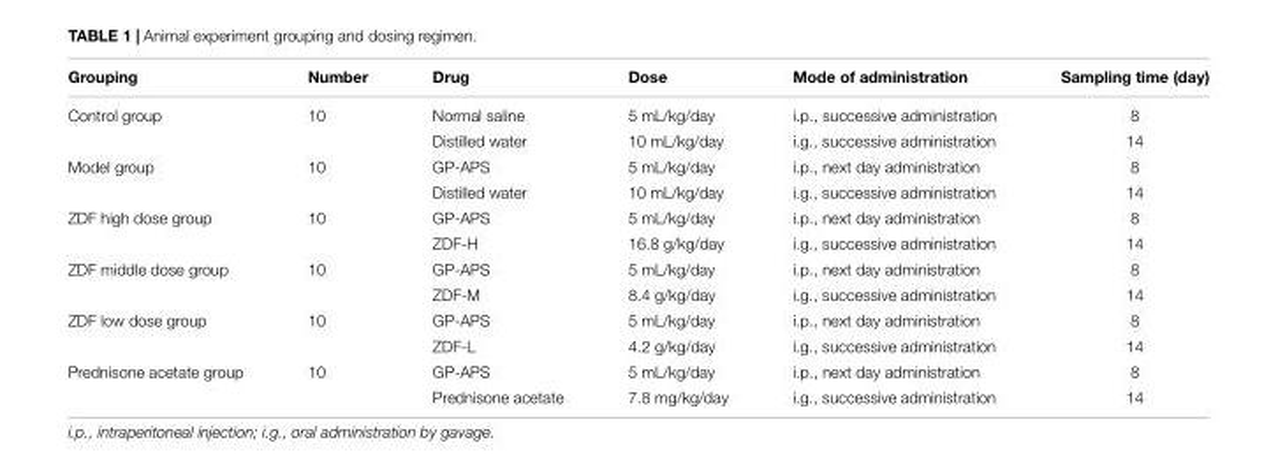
<table><thead><tr><td>Grouping</td><td>Number</td><td>Drug</td><td>Dose</td><td>Mode of administration</td><td>Sampling time (day)</td></tr></thead><tbody><tr><td rowspan="2">Control group</td><td>10</td><td>Normal saline</td><td>5 mL/kg/day</td><td>i.p., successive administration</td><td>8</td></tr><tr><td></td><td>Distilled water</td><td>10 mL/kg/day</td><td>i.g., successive administration</td><td>14</td></tr><tr><td rowspan="2">Model group</td><td>10</td><td>GP-APS</td><td>5 mL/kg/day</td><td>i.p., next day administration</td><td>8</td></tr><tr><td></td><td>Distilled water</td><td>10 mL/kg/day</td><td>i.g., successive administration</td><td>14</td></tr><tr><td rowspan="2">ZDF high dose group</td><td>10</td><td>GP-APS</td><td>5 mL/kg/day</td><td>i.p., next day administration</td><td>8</td></tr><tr><td></td><td>ZDF-H</td><td>16.8 g/kg/day</td><td>i.g., successive administration</td><td>14</td></tr><tr><td rowspan="2">ZDF middle dose group</td><td>10</td><td>GP-APS</td><td>5 mL/kg/day</td><td>i.p., next day administration</td><td>8</td></tr><tr><td></td><td>ZDF-M</td><td>8.4 g/kg/day</td><td>i.g., successive administration</td><td>14</td></tr><tr><td rowspan="2">ZDF low dose group</td><td>10</td><td>GP-APS</td><td>5 mL/kg/day</td><td>i.p., next day administration</td><td>8</td></tr><tr><td></td><td>ZDF-L</td><td>4.2 g/kg/day</td><td>i.g., successive administration</td><td>14</td></tr><tr><td rowspan="2">Prednisone acetate group</td><td>10</td><td>GP-APS</td><td>5 mL/kg/day</td><td>i.p., next day administration</td><td>8</td></tr><tr><td></td><td>Prednisone acetate</td><td>7.8 mg/kg/day</td><td>i.g., successive administration</td><td>14</td></tr></tbody></table>